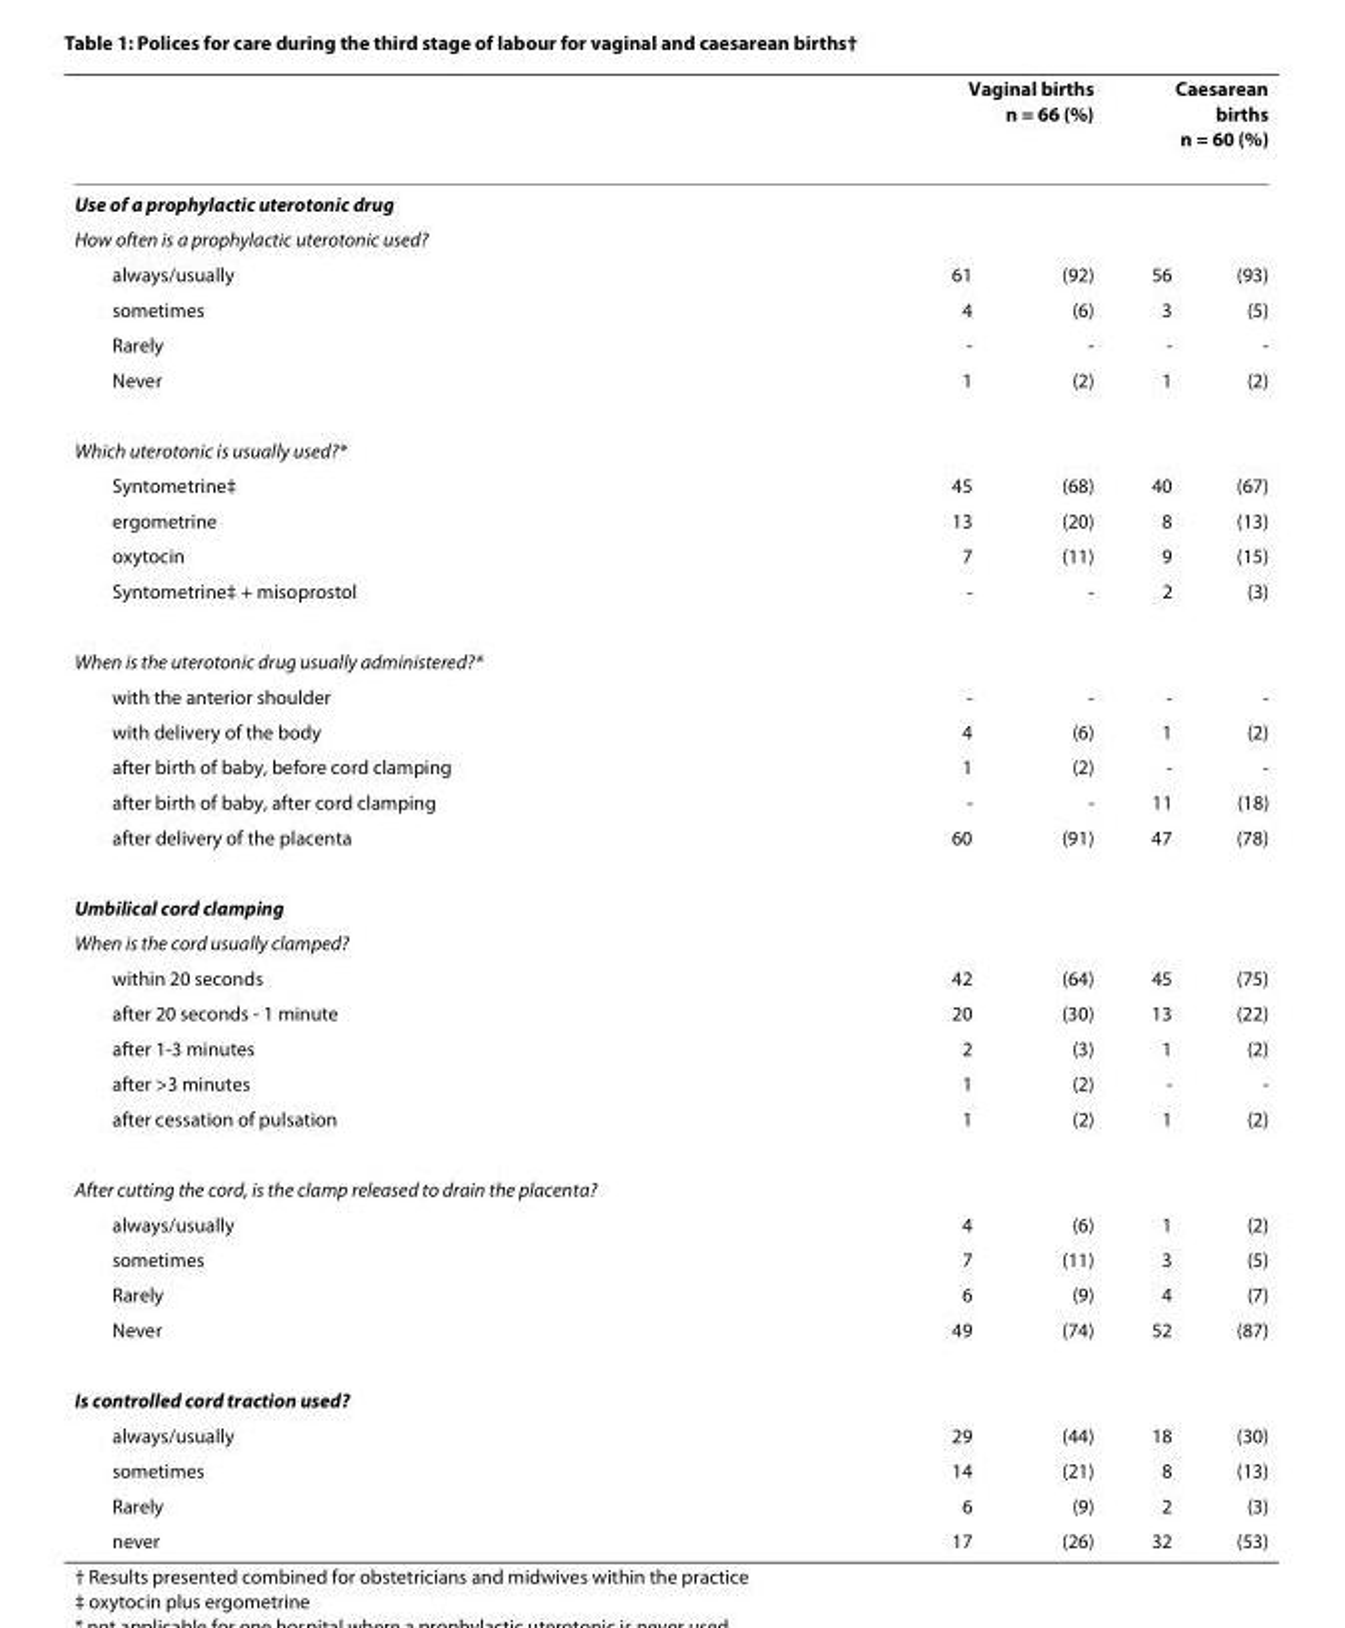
<table><thead><tr><td rowspan="2">Use of a prophylactic uterotonic drug</td><td colspan="2">Vaginal births n = 66 (%)</td><td colspan="2">Caesarean births n = 60 (%)</td></tr><tr><td></td><td></td><td></td><td></td></tr></thead><tbody><tr><td colspan="5">How often is a prophylactic uterotonic used?</td></tr><tr><td>always/usually</td><td>61</td><td>(92)</td><td>56</td><td>(93)</td></tr><tr><td>sometimes</td><td>4</td><td>(6)</td><td>3</td><td>(5)</td></tr><tr><td>Rarely</td><td>-</td><td>-</td><td>-</td><td>-</td></tr><tr><td>Never</td><td>1</td><td>(2)</td><td>1</td><td>(2)</td></tr><tr><td colspan="5">Which uterotonic is usually used?*</td></tr><tr><td>Syntometrine‡</td><td>45</td><td>(68)</td><td>40</td><td>(67)</td></tr><tr><td>ergometrine</td><td>13</td><td>(20)</td><td>8</td><td>(13)</td></tr><tr><td>oxytocin</td><td>7</td><td>(11)</td><td>9</td><td>(15)</td></tr><tr><td>Syntometrine‡ + misoprostol</td><td>-</td><td>-</td><td>2</td><td>(3)</td></tr><tr><td colspan="5">When is the uterotonic drug usually administered?*</td></tr><tr><td>with the anterior shoulder</td><td>-</td><td>-</td><td>-</td><td>-</td></tr><tr><td>with delivery of the body</td><td>4</td><td>(6)</td><td>1</td><td>(2)</td></tr><tr><td>after birth of baby, before cord clamping</td><td>1</td><td>(2)</td><td>-</td><td>-</td></tr><tr><td>after birth of baby, after cord clamping</td><td>-</td><td>-</td><td>11</td><td>(18)</td></tr><tr><td>after delivery of the placenta</td><td>60</td><td>(91)</td><td>47</td><td>(78)</td></tr><tr><td colspan="5">Umbilical cord clamping</td></tr><tr><td colspan="5">When is the cord usually clamped?</td></tr><tr><td>within 20 seconds</td><td>42</td><td>(64)</td><td>45</td><td>(75)</td></tr><tr><td>after 20 seconds - 1 minute</td><td>20</td><td>(30)</td><td>13</td><td>(22)</td></tr><tr><td>after 1-3 minutes</td><td>2</td><td>(3)</td><td>1</td><td>(2)</td></tr><tr><td>after &gt;3 minutes</td><td>1</td><td>(2)</td><td>-</td><td>-</td></tr><tr><td>after cessation of pulsation</td><td>1</td><td>(2)</td><td>1</td><td>(2)</td></tr><tr><td colspan="5">After cutting the cord, is the clamp released to drain the placenta?</td></tr><tr><td>always/usually</td><td>4</td><td>(6)</td><td>1</td><td>(2)</td></tr><tr><td>sometimes</td><td>7</td><td>(11)</td><td>3</td><td>(5)</td></tr><tr><td>Rarely</td><td>6</td><td>(9)</td><td>4</td><td>(7)</td></tr><tr><td>Never</td><td>49</td><td>(74)</td><td>52</td><td>(87)</td></tr><tr><td colspan="5">Is controlled cord traction used?</td></tr><tr><td>always/usually</td><td>29</td><td>(44)</td><td>18</td><td>(30)</td></tr><tr><td>sometimes</td><td>14</td><td>(21)</td><td>8</td><td>(13)</td></tr><tr><td>Rarely</td><td>6</td><td>(9)</td><td>2</td><td>(3)</td></tr><tr><td>never</td><td>17</td><td>(26)</td><td>32</td><td>(53)</td></tr></tbody></table>